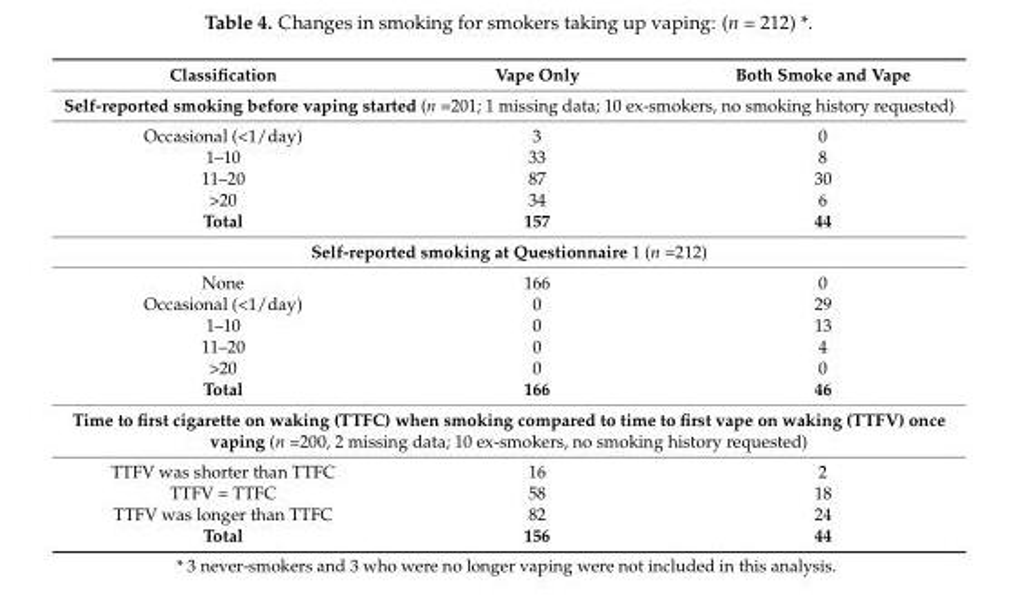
<table><thead><tr><td>Classification</td><td>Vape Only</td><td>Both Smoke and Vape</td></tr></thead><tbody><tr><td colspan="3">Self-reported smoking before vaping started (n =201; 1 missing data; 10 ex-smokers, no smoking history requested)</td></tr><tr><td>Occasional (&lt;1/day)</td><td>3</td><td>0</td></tr><tr><td>1–10</td><td>33</td><td>8</td></tr><tr><td>11–20</td><td>87</td><td>30</td></tr><tr><td>&gt;20</td><td>34</td><td>6</td></tr><tr><td>Total</td><td>157</td><td>44</td></tr><tr><td colspan="3">Self-reported smoking at Questionnaire 1 (n =212)</td></tr><tr><td>None</td><td>166</td><td>0</td></tr><tr><td>Occasional (&lt;1/day)</td><td>0</td><td>29</td></tr><tr><td>1–10</td><td>0</td><td>13</td></tr><tr><td>11–20</td><td>0</td><td>4</td></tr><tr><td>&gt;20</td><td>0</td><td>0</td></tr><tr><td>Total</td><td>166</td><td>46</td></tr><tr><td colspan="3">Time to first cigarette on waking (TTFC) when smoking compared to time to first vape on waking (TTFV) once vaping (n =200, 2 missing data; 10 ex-smokers, no smoking history requested)</td></tr><tr><td>TTFV was shorter than TTFC</td><td>16</td><td>2</td></tr><tr><td>TTFV = TTFC</td><td>58</td><td>18</td></tr><tr><td>TTFV was longer than TTFC</td><td>82</td><td>24</td></tr><tr><td>Total</td><td>156</td><td>44</td></tr></tbody></table>